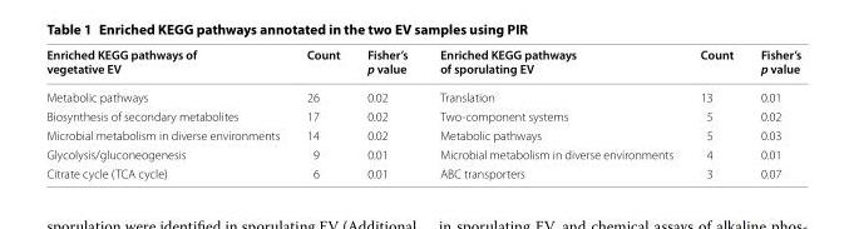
<table><thead><tr><td>Enriched KEGG pathways of vegetative EV</td><td>Count</td><td>Fisher’s p value</td><td>Enriched KEGG pathways of sporulating EV</td><td>Count</td><td>Fisher’s p value</td></tr></thead><tbody><tr><td>Metabolic pathways</td><td>26</td><td>0.02</td><td>Translation</td><td>13</td><td>0.01</td></tr><tr><td>Biosynthesis of secondary metabolites</td><td>17</td><td>0.02</td><td>Two-component systems</td><td>5</td><td>0.02</td></tr><tr><td>Microbial metabolism in diverse environments</td><td>14</td><td>0.02</td><td>Metabolic pathways</td><td>5</td><td>0.03</td></tr><tr><td>Glycolysis/gluconeogenesis</td><td>9</td><td>0.01</td><td>Microbial metabolism in diverse environments</td><td>4</td><td>0.01</td></tr><tr><td>Citrate cycle (TCA cycle)</td><td>6</td><td>0.01</td><td>ABC transporters</td><td>3</td><td>0.07</td></tr></tbody></table>